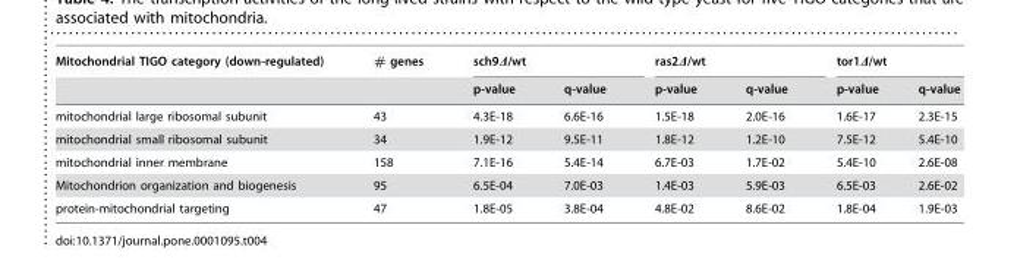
<table><thead><tr><td rowspan="2">Mitochondrial TIGO category (down-regulated)</td><td rowspan="2"># genes</td><td colspan="2">sch9Δ/wt</td><td colspan="2">ras2Δ/wt</td><td colspan="2">tor1Δ/wt</td></tr><tr><td>p-value</td><td>q-value</td><td>p-value</td><td>q-value</td><td>p-value</td><td>q-value</td></tr></thead><tbody><tr><td>mitochondrial large ribosomal subunit</td><td>43</td><td>4.3E-18</td><td>6.6E-16</td><td>1.5E-18</td><td>2.0E-16</td><td>1.6E-17</td><td>2.3E-15</td></tr><tr><td>mitochondrial small ribosomal subunit</td><td>34</td><td>1.9E-12</td><td>9.5E-11</td><td>1.8E-12</td><td>1.2E-10</td><td>7.5E-12</td><td>5.4E-10</td></tr><tr><td>mitochondrial inner membrane</td><td>158</td><td>7.1E-16</td><td>5.4E-14</td><td>6.7E-03</td><td>1.7E-02</td><td>5.4E-10</td><td>2.6E-08</td></tr><tr><td>Mitochondrion organization and biogenesis</td><td>95</td><td>6.5E-04</td><td>7.0E-03</td><td>1.4E-03</td><td>5.9E-03</td><td>6.5E-03</td><td>2.6E-02</td></tr><tr><td>protein-mitochondrial targeting</td><td>47</td><td>1.8E-05</td><td>3.8E-04</td><td>4.8E-02</td><td>8.6E-02</td><td>1.8E-04</td><td>1.9E-03</td></tr></tbody></table>